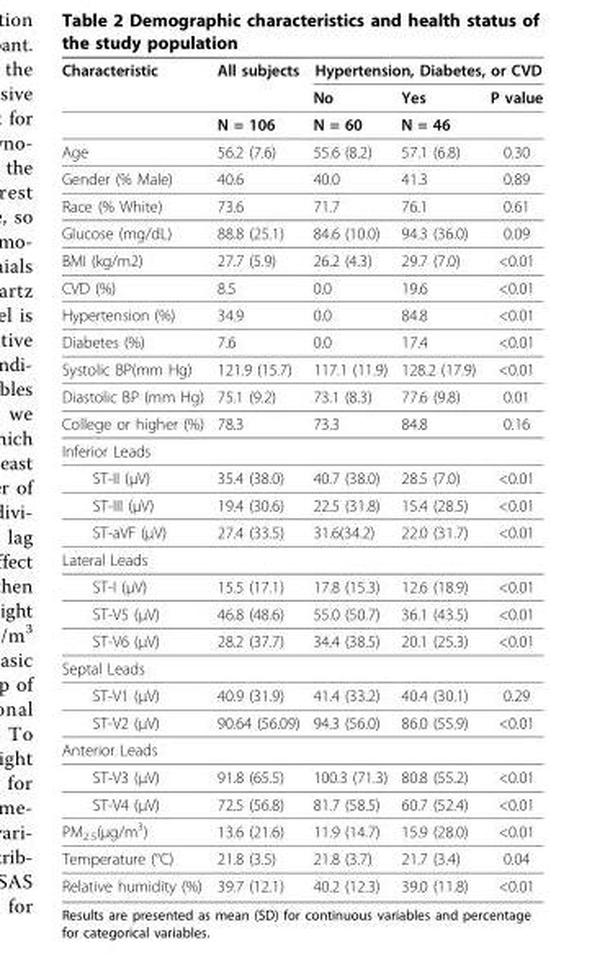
<table><thead><tr><td rowspan="2">Characteristic</td><td rowspan="2">All subjects</td><td colspan="3">Hypertension, Diabetes, or CVD</td></tr><tr><td>No</td><td>Yes</td><td>P value</td></tr></thead><tbody><tr><td></td><td>N = 106</td><td>N = 60</td><td>N = 46</td><td></td></tr><tr><td>Age</td><td>56.2 (7.6)</td><td>55.6 (8.2)</td><td>57.1 (6.8)</td><td>0.30</td></tr><tr><td>Gender (% Male)</td><td>40.6</td><td>40.0</td><td>41.3</td><td>0.89</td></tr><tr><td>Race (% White)</td><td>73.6</td><td>71.7</td><td>76.1</td><td>0.61</td></tr><tr><td>Glucose (mg/dL)</td><td>88.8 (25.1)</td><td>84.6 (10.0)</td><td>94.3 (36.0)</td><td>0.09</td></tr><tr><td>BMI (kg/m2)</td><td>27.7 (5.9)</td><td>26.2 (4.3)</td><td>29.7 (7.0)</td><td>&lt;0.01</td></tr><tr><td>CVD (%)</td><td>8.5</td><td>0.0</td><td>19.6</td><td>&lt;0.01</td></tr><tr><td>Hypertension (%)</td><td>34.9</td><td>0.0</td><td>84.8</td><td>&lt;0.01</td></tr><tr><td>Diabetes (%)</td><td>7.6</td><td>0.0</td><td>17.4</td><td>&lt;0.01</td></tr><tr><td>Systolic BP(mm Hg)</td><td>121.9 (15.7)</td><td>117.1 (11.9)</td><td>128.2 (17.9)</td><td>&lt;0.01</td></tr><tr><td>Diastolic BP (mm Hg)</td><td>75.1 (9.2)</td><td>73.1 (8.3)</td><td>77.6 (9.8)</td><td>0.01</td></tr><tr><td>College or higher (%)</td><td>78.3</td><td>73.3</td><td>84.8</td><td>0.16</td></tr><tr><td colspan="5">Inferior Leads</td></tr><tr><td>ST-II (μV)</td><td>35.4 (38.0)</td><td>40.7 (38.0)</td><td>28.5 (7.0)</td><td>&lt;0.01</td></tr><tr><td>ST-III (μV)</td><td>19.4 (30.6)</td><td>22.5 (31.8)</td><td>15.4 (28.5)</td><td>&lt;0.01</td></tr><tr><td>ST-aVF (μV)</td><td>27.4 (33.5)</td><td>31.6(34.2)</td><td>22.0 (31.7)</td><td>&lt;0.01</td></tr><tr><td colspan="5">Lateral Leads</td></tr><tr><td>ST-I (μV)</td><td>15.5 (17.1)</td><td>17.8 (15.3)</td><td>12.6 (18.9)</td><td>&lt;0.01</td></tr><tr><td>ST-V5 (μV)</td><td>46.8 (48.6)</td><td>55.0 (50.7)</td><td>36.1 (43.5)</td><td>&lt;0.01</td></tr><tr><td>ST-V6 (μV)</td><td>28.2 (37.7)</td><td>34.4 (38.5)</td><td>20.1 (25.3)</td><td>&lt;0.01</td></tr><tr><td colspan="5">Septal Leads</td></tr><tr><td>ST-V1 (μV)</td><td>40.9 (31.9)</td><td>41.4 (33.2)</td><td>40.4 (30.1)</td><td>0.29</td></tr><tr><td>ST-V2 (μV)</td><td>90.64 (56.09)</td><td>94.3 (56.0)</td><td>86.0 (55.9)</td><td>&lt;0.01</td></tr><tr><td colspan="5">Anterior Leads</td></tr><tr><td>ST-V3 (μV)</td><td>91.8 (65.5)</td><td>100.3 (71.3)</td><td>80.8 (55.2)</td><td>&lt;0.01</td></tr><tr><td>ST-V4 (μV)</td><td>72.5 (56.8)</td><td>81.7 (58.5)</td><td>60.7 (52.4)</td><td>&lt;0.01</td></tr><tr><td>PM<sub>2.5</sub>(μg/m<sup>3</sup>)</td><td>13.6 (21.6)</td><td>11.9 (14.7)</td><td>15.9 (28.0)</td><td>&lt;0.01</td></tr><tr><td>Temperature (°C)</td><td>21.8 (3.5)</td><td>21.8 (3.7)</td><td>21.7 (3.4)</td><td>0.04</td></tr><tr><td>Relative humidity (%)</td><td>39.7 (12.1)</td><td>40.2 (12.3)</td><td>39.0 (11.8)</td><td>&lt;0.01</td></tr></tbody></table>